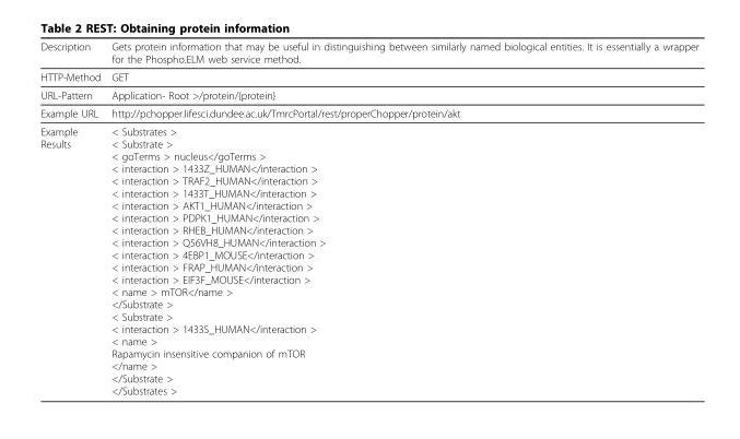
<table><thead><tr><td>Description</td><td>Gets protein information that may be useful in distinguishing between similarly named biological entities. It is essentially a wrapper for the Phospho.ELM web service method.</td></tr></thead><tbody><tr><td>HTTP-Method</td><td>GET</td></tr><tr><td>URL-Pattern</td><td>Application- Root &gt;/protein/{protein}</td></tr><tr><td>Example URL</td><td>http://pchopper.lifesci.dundee.ac.uk/TmrcPortal/rest/properChopper/protein/akt</td></tr><tr><td>Example Results</td><td>&lt; Substrates &gt; &lt; Substrate &gt; &lt; goTerms &gt; nucleus&lt;/goTerms &gt; &lt; interaction &gt; 1433Z_HUMAN&lt;/interaction &gt; &lt; interaction &gt; TRAF2_HUMAN&lt;/interaction &gt; &lt; interaction &gt; 1433T_HUMAN&lt;/interaction &gt; &lt; interaction &gt; AKT1_HUMAN&lt;/interaction &gt; &lt; interaction &gt; PDPK1_HUMAN&lt;/interaction &gt; &lt; interaction &gt; RHEB_HUMAN&lt;/interaction &gt; &lt; interaction &gt; Q56VH8_HUMAN&lt;/interaction &gt; &lt; interaction &gt; 4EBP1_MOUSE&lt;/interaction &gt; &lt; interaction &gt; FRAP_HUMAN&lt;/interaction &gt; &lt; interaction &gt; EIF3F_MOUSE&lt;/interaction &gt; &lt; name &gt; mTOR&lt;/name &gt; &lt;/Substrate &gt; &lt; Substrate &gt; &lt; interaction &gt; 1433S_HUMAN&lt;/interaction &gt; &lt; name &gt; Rapamycin insensitive companion of mTOR &lt;/name &gt; &lt;/Substrate &gt; &lt;/Substrates &gt;</td></tr></tbody></table>